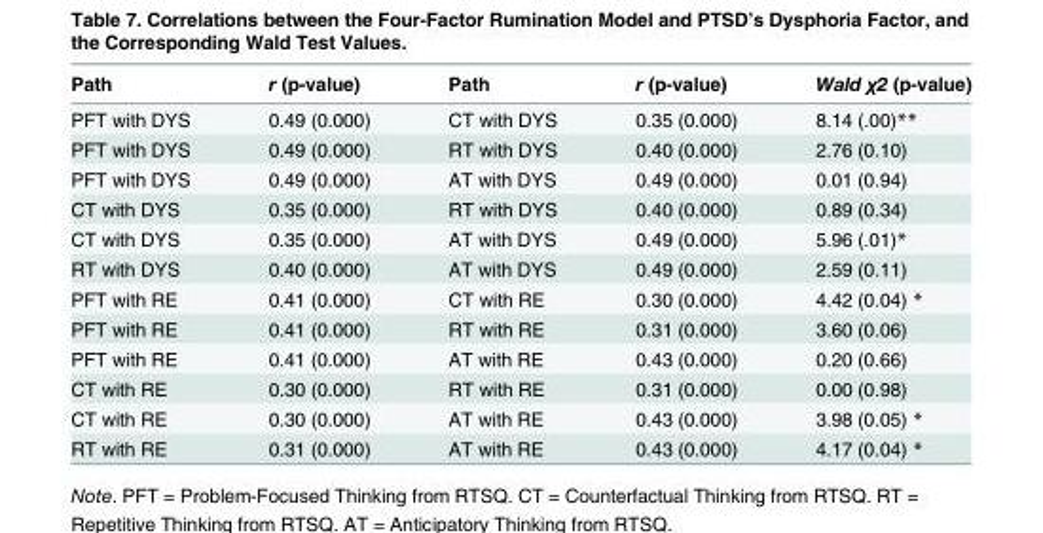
<table><thead><tr><td>Path</td><td>r (p-value)</td><td>Path</td><td>r (p-value)</td><td>Wald χ2 (p-value)</td></tr></thead><tbody><tr><td>PFT with DYS</td><td>0.49 (0.000)</td><td>CT with DYS</td><td>0.35 (0.000)</td><td>8.14 (.00)**</td></tr><tr><td>PFT with DYS</td><td>0.49 (0.000)</td><td>RT with DYS</td><td>0.40 (0.000)</td><td>2.76 (0.10)</td></tr><tr><td>PFT with DYS</td><td>0.49 (0.000)</td><td>AT with DYS</td><td>0.49 (0.000)</td><td>0.01 (0.94)</td></tr><tr><td>CT with DYS</td><td>0.35 (0.000)</td><td>RT with DYS</td><td>0.40 (0.000)</td><td>0.89 (0.34)</td></tr><tr><td>CT with DYS</td><td>0.35 (0.000)</td><td>AT with DYS</td><td>0.49 (0.000)</td><td>5.96 (.01)*</td></tr><tr><td>RT with DYS</td><td>0.40 (0.000)</td><td>AT with DYS</td><td>0.49 (0.000)</td><td>2.59 (0.11)</td></tr><tr><td>PFT with RE</td><td>0.41 (0.000)</td><td>CT with RE</td><td>0.30 (0.000)</td><td>4.42 (0.04) *</td></tr><tr><td>PFT with RE</td><td>0.41 (0.000)</td><td>RT with RE</td><td>0.31 (0.000)</td><td>3.60 (0.06)</td></tr><tr><td>PFT with RE</td><td>0.41 (0.000)</td><td>AT with RE</td><td>0.43 (0.000)</td><td>0.20 (0.66)</td></tr><tr><td>CT with RE</td><td>0.30 (0.000)</td><td>RT with RE</td><td>0.31 (0.000)</td><td>0.00 (0.98)</td></tr><tr><td>CT with RE</td><td>0.30 (0.000)</td><td>AT with RE</td><td>0.43 (0.000)</td><td>3.98 (0.05) *</td></tr><tr><td>RT with RE</td><td>0.31 (0.000)</td><td>AT with RE</td><td>0.43 (0.000)</td><td>4.17 (0.04) *</td></tr></tbody></table>